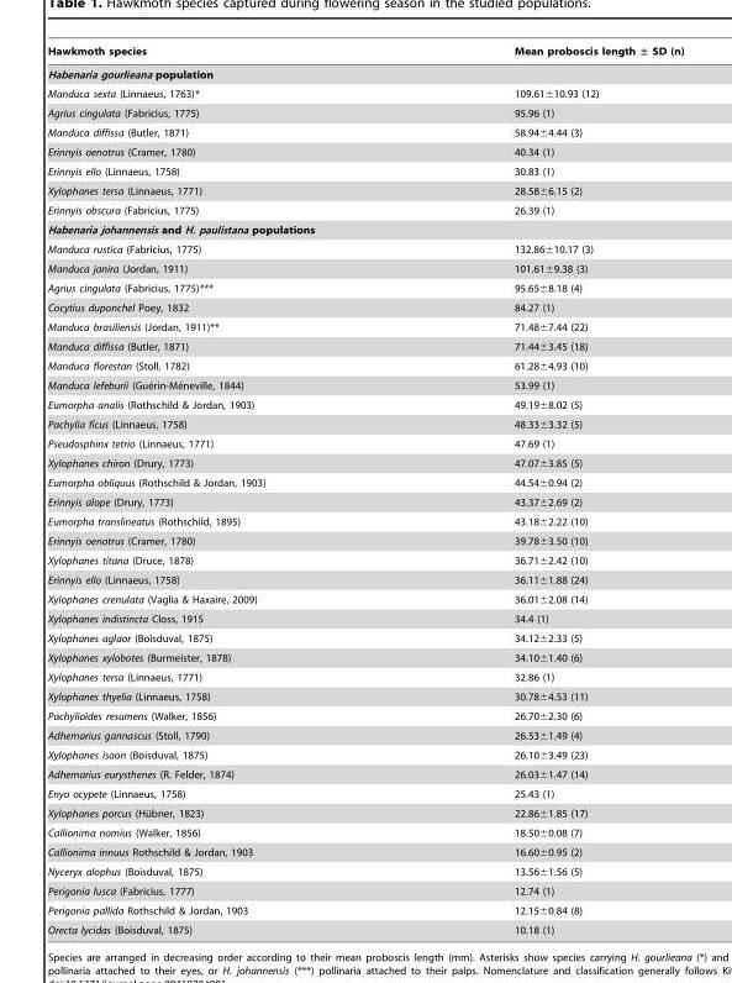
<table><thead><tr><td>Hawkmoth species</td><td>Mean proboscis length ± SD (n)</td></tr></thead><tbody><tr><td colspan="2">Habenaria gourlieana population</td></tr><tr><td>Manduca sexta (Linnaeus, 1763)*</td><td>109.61±10.93 (12)</td></tr><tr><td>Agrius cingulata (Fabricius, 1775)</td><td>95.96 (1)</td></tr><tr><td>Manduca diffissa (Butler, 1871)</td><td>58.94±4.44 (3)</td></tr><tr><td>Erinnyis oenotrus (Cramer, 1780)</td><td>40.34 (1)</td></tr><tr><td>Erinnyis ello (Linnaeus, 1758)</td><td>30.83 (1)</td></tr><tr><td>Xylophanes tersa (Linnaeus, 1771)</td><td>28.58±6.15 (2)</td></tr><tr><td>Erinnyis obscura (Fabricius, 1775)</td><td>26.39 (1)</td></tr><tr><td colspan="2">Habenaria johannensis and H. paulistana populations</td></tr><tr><td>Manduca rustica (Fabricius, 1775)</td><td>132.86±10.17 (3)</td></tr><tr><td>Manduca janira (Jordan, 1911)</td><td>101.61±9.38 (3)</td></tr><tr><td>Agrius cingulata (Fabricius, 1775)***</td><td>95.65±8.18 (4)</td></tr><tr><td>Cocytius duponchel Poey, 1832</td><td>84.27 (1)</td></tr><tr><td>Manduca brasiliensis (Jordan, 1911)**</td><td>71.48±7.44 (22)</td></tr><tr><td>Manduca diffissa (Butler, 1871)</td><td>71.44±3.45 (18)</td></tr><tr><td>Manduca florestan (Stoll, 1782)</td><td>61.28±4.93 (10)</td></tr><tr><td>Manduca lefeburii (Gue´rin-Me´neville, 1844)</td><td>53.99 (1)</td></tr><tr><td>Eumorpha analis (Rothschild &amp; Jordan, 1903)</td><td>49.19±8.02 (5)</td></tr><tr><td>Pachylia fı´cus (Linnaeus, 1758)</td><td>48.33±3.32 (5)</td></tr><tr><td>Pseudosphinx tetrio (Linnaeus, 1771)</td><td>47.69 (1)</td></tr><tr><td>Xylophanes chiron (Drury, 1773)</td><td>47.07±3.85 (5)</td></tr><tr><td>Eumorpha obliquus (Rothschild &amp; Jordan, 1903)</td><td>44.54±0.94 (2)</td></tr><tr><td>Erinnyis alope (Drury, 1773)</td><td>43.37±2.69 (2)</td></tr><tr><td>Eumorpha translineatus (Rothschild, 1895)</td><td>43.18±2.22 (10)</td></tr><tr><td>Erinnyis oenotrus (Cramer, 1780)</td><td>39.78±3.50 (10)</td></tr><tr><td>Xylophanes titana (Druce, 1878)</td><td>36.71±2.42 (10)</td></tr><tr><td>Erinnyis ello (Linnaeus, 1758)</td><td>36.11±1.88 (24)</td></tr><tr><td>Xylophanes crenulata (Vaglia &amp; Haxaire, 2009)</td><td>36.01±2.08 (14)</td></tr><tr><td>Xylophanes indistincta Closs, 1915</td><td>34.4 (1)</td></tr><tr><td>Xylophanes aglaor (Boisduval, 1875)</td><td>34.12±2.33 (5)</td></tr><tr><td>Xylophanes xylobotes (Burmeister, 1878)</td><td>34.10±1.40 (6)</td></tr><tr><td>Xylophanes tersa (Linnaeus, 1771)</td><td>32.86 (1)</td></tr><tr><td>Xylophanes thyelia (Linnaeus, 1758)</td><td>30.78±4.53 (11)</td></tr><tr><td>Pachylioides resumens (Walker, 1856)</td><td>26.70±2.30 (6)</td></tr><tr><td>Adhemarius gannascus (Stoll, 1790)</td><td>26.53±1.49 (4)</td></tr><tr><td>Xylophanes isaon (Boisduval, 1875)</td><td>26.10±3.49 (23)</td></tr><tr><td>Adhemarius eurysthenes (R. Felder, 1874)</td><td>26.03±1.47 (14)</td></tr><tr><td>Enyo ocypete (Linnaeus, 1758)</td><td>25.43 (1)</td></tr><tr><td>Xylophanes porcus (Hu¨bner, 1823)</td><td>22.86±1.85 (17)</td></tr><tr><td>Callionima nomius (Walker, 1856)</td><td>18.50±0.08 (7)</td></tr><tr><td>Callionima innuus Rothschild &amp; Jordan, 1903</td><td>16.60±0.95 (2)</td></tr><tr><td>Nyceryx alophus (Boisduval, 1875)</td><td>13.56±1.56 (5)</td></tr><tr><td>Perigonia lusca (Fabricius, 1777)</td><td>12.74 (1)</td></tr><tr><td>Perigonia pallida Rothschild &amp; Jordan, 1903</td><td>12.15±0.84 (8)</td></tr><tr><td>Orecta lycidas (Boisduval, 1875)</td><td>10.18 (1)</td></tr></tbody></table>